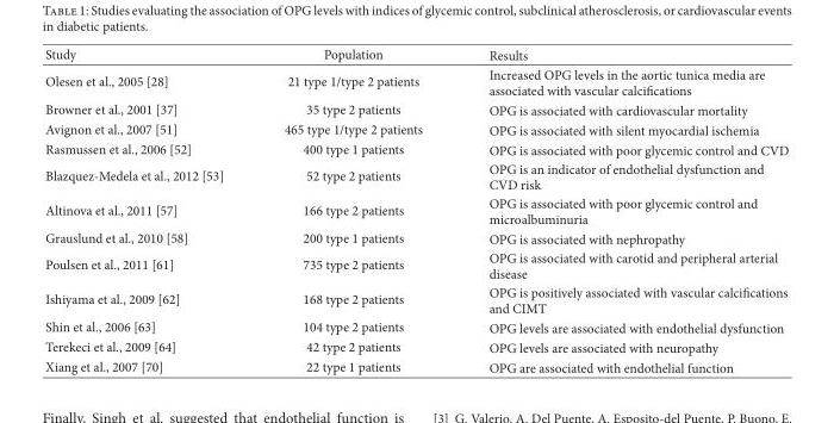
<table><thead><tr><td>Study</td><td>Population</td><td>Results</td></tr></thead><tbody><tr><td>Olesen et al., 2005 [28]</td><td>21 type 1/type 2 patients</td><td>Increased OPG levels in the aortic tunica media are associated with vascular calci�cations</td></tr><tr><td>Browner et al., 2001 [37]</td><td>35 type 2 patients</td><td>OPG is associated with cardiovascular mortality</td></tr><tr><td>Avignon et al., 2007 [51]</td><td>465 type 1/type 2 patients</td><td>OPG is associated with silent myocardial ischemia</td></tr><tr><td>Rasmussen et al., 2006 [52]</td><td>400 type 1 patients</td><td>OPG is associated with poor glycemic control and CVD</td></tr><tr><td>Blazquez-Medela et al., 2012 [53]</td><td>52 type 2 patients</td><td>OPG is an indicator of endothelial dysfunction and CVD risk</td></tr><tr><td>Altinova et al., 2011 [57]</td><td>166 type 2 patients</td><td>OPG is associated with poor glycemic control and microalbuminuria</td></tr><tr><td>Grauslund et al., 2010 [58]</td><td>200 type 1 patients</td><td>OPG is associated with nephropathy</td></tr><tr><td>Poulsen et al., 2011 [61]</td><td>735 type 2 patients</td><td>OPG is associated with carotid and peripheral arterial disease</td></tr><tr><td>Ishiyama et al., 2009 [62]</td><td>168 type 2 patients</td><td>OPG is positively associated with vascular calci�cations and CIMT</td></tr><tr><td>Shin et al., 2006 [63]</td><td>104 type 2 patients</td><td>OPG levels are associated with endothelial dysfunction</td></tr><tr><td>Terekeci et al., 2009 [64]</td><td>42 type 2 patients</td><td>OPG levels are associated with neuropathy</td></tr><tr><td>Xiang et al., 2007 [70]</td><td>22 type 1 patients</td><td>OPG are associated with endothelial function</td></tr></tbody></table>